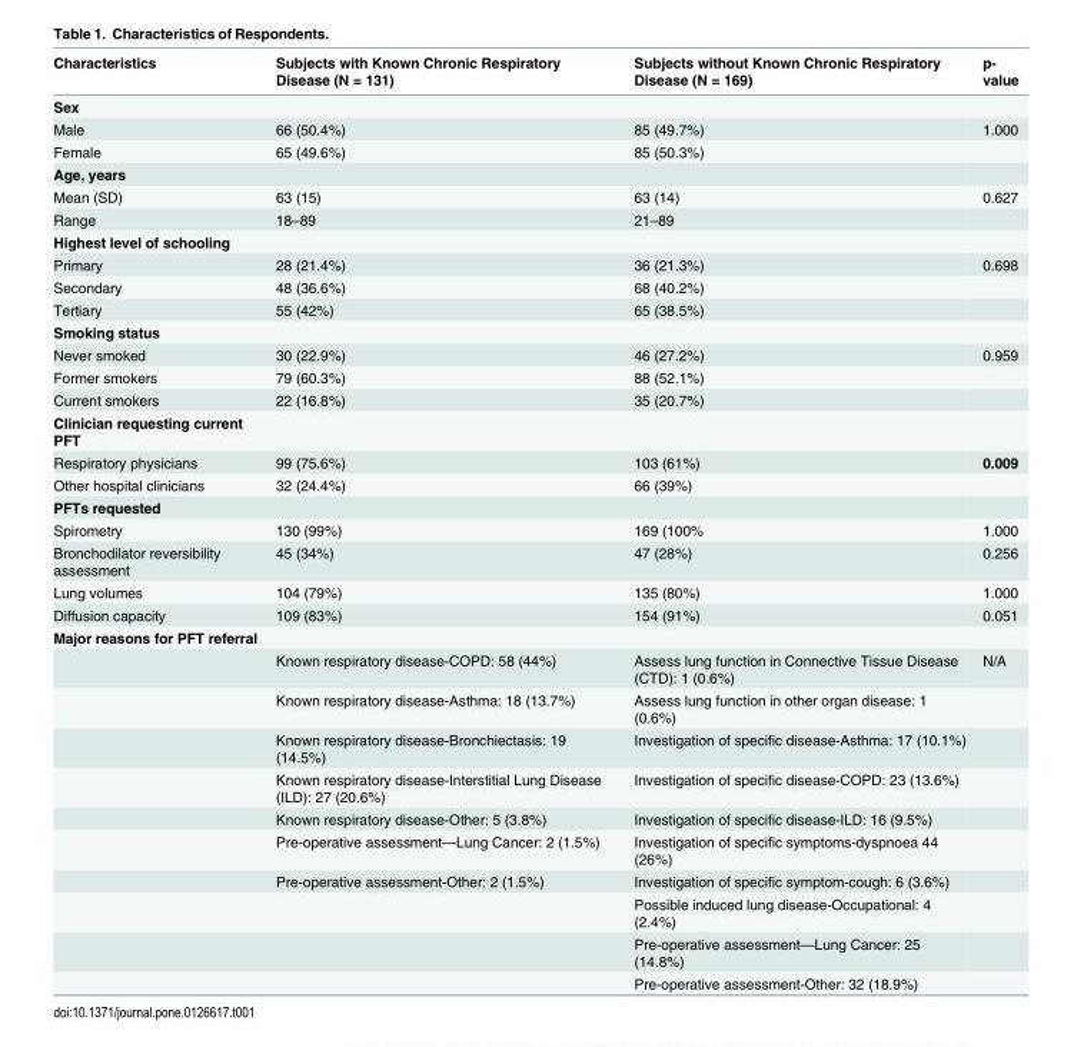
<table><thead><tr><td>Characteristics</td><td>Subjects with Known Chronic Respiratory Disease (N = 131)</td><td>Subjects without Known Chronic Respiratory Disease (N = 169)</td><td>p- value</td></tr></thead><tbody><tr><td colspan="4">Sex</td></tr><tr><td>Male</td><td>66 (50.4%)</td><td>85 (49.7%)</td><td>1.000</td></tr><tr><td>Female</td><td>65 (49.6%)</td><td>85 (50.3%)</td><td></td></tr><tr><td colspan="4">Age, years</td></tr><tr><td>Mean (SD)</td><td>63 (15)</td><td>63 (14)</td><td>0.627</td></tr><tr><td>Range</td><td>18–89</td><td>21–89</td><td></td></tr><tr><td colspan="4">Highest level of schooling</td></tr><tr><td>Primary</td><td>28 (21.4%)</td><td>36 (21.3%)</td><td>0.698</td></tr><tr><td>Secondary</td><td>48 (36.6%)</td><td>68 (40.2%)</td><td></td></tr><tr><td>Tertiary</td><td>55 (42%)</td><td>65 (38.5%)</td><td></td></tr><tr><td colspan="4">Smoking status</td></tr><tr><td>Never smoked</td><td>30 (22.9%)</td><td>46 (27.2%)</td><td>0.959</td></tr><tr><td>Former smokers</td><td>79 (60.3%)</td><td>88 (52.1%)</td><td></td></tr><tr><td>Current smokers</td><td>22 (16.8%)</td><td>35 (20.7%)</td><td></td></tr><tr><td colspan="4">Clinician requesting current PFT</td></tr><tr><td>Respiratory physicians</td><td>99 (75.6%)</td><td>103 (61%)</td><td>0.009</td></tr><tr><td>Other hospital clinicians</td><td>32 (24.4%)</td><td>66 (39%)</td><td></td></tr><tr><td colspan="4">PFTs requested</td></tr><tr><td>Spirometry</td><td>130 (99%)</td><td>169 (100%</td><td>1.000</td></tr><tr><td>Bronchodilator reversibility assessment</td><td>45 (34%)</td><td>47 (28%)</td><td>0.256</td></tr><tr><td>Lung volumes</td><td>104 (79%)</td><td>135 (80%)</td><td>1.000</td></tr><tr><td>Diffusion capacity</td><td>109 (83%)</td><td>154 (91%)</td><td>0.051</td></tr><tr><td colspan="4">Major reasons for PFT referral</td></tr><tr><td></td><td>Known respiratory disease-COPD: 58 (44%)</td><td>Assess lung function in Connective Tissue Disease (CTD): 1 (0.6%)</td><td>N/A</td></tr><tr><td></td><td>Known respiratory disease-Asthma: 18 (13.7%)</td><td>Assess lung function in other organ disease: 1 (0.6%)</td><td></td></tr><tr><td></td><td>Known respiratory disease-Bronchiectasis: 19 (14.5%)</td><td>Investigation of specific disease-Asthma: 17 (10.1%)</td><td></td></tr><tr><td></td><td>Known respiratory disease-Interstitial Lung Disease (ILD): 27 (20.6%)</td><td>Investigation of specific disease-COPD: 23 (13.6%)</td><td></td></tr><tr><td></td><td>Known respiratory disease-Other: 5 (3.8%)</td><td>Investigation of specific disease-ILD: 16 (9.5%)</td><td></td></tr><tr><td></td><td>Pre-operative assessment—Lung Cancer: 2 (1.5%)</td><td>Investigation of specific symptoms-dyspnoea 44 (26%)</td><td></td></tr><tr><td></td><td>Pre-operative assessment-Other: 2 (1.5%)</td><td>Investigation of specific symptom-cough: 6 (3.6%)</td><td></td></tr><tr><td></td><td></td><td>Possible induced lung disease-Occupational: 4 (2.4%)</td><td></td></tr><tr><td></td><td></td><td>Pre-operative assessment—Lung Cancer: 25 (14.8%)</td><td></td></tr><tr><td></td><td></td><td>Pre-operative assessment-Other: 32 (18.9%)</td><td></td></tr></tbody></table>